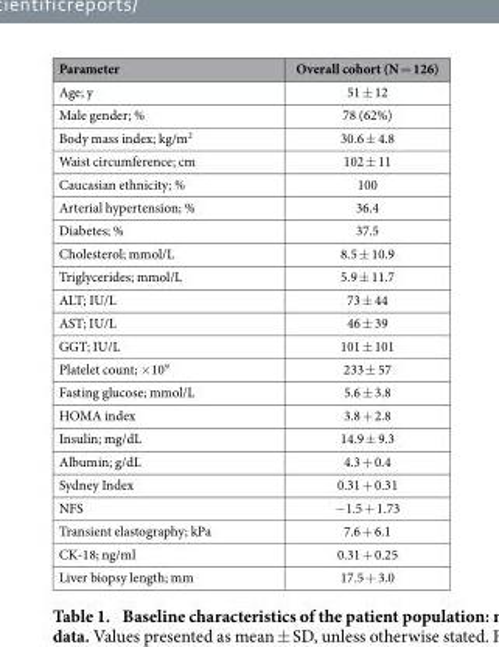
<table><thead><tr><td>Parameter</td><td>Overall cohort (N = 126)</td></tr></thead><tbody><tr><td>Age; y</td><td>51 ± 12</td></tr><tr><td>Male gender; %</td><td>78 (62%)</td></tr><tr><td>Body mass index; kg/m<sup>2</sup></td><td>30.6 ± 4.8</td></tr><tr><td>Waist circumference; cm</td><td>102 ± 11</td></tr><tr><td>Caucasian ethnicity; %</td><td>100</td></tr><tr><td>Arterial hypertension; %</td><td>36.4</td></tr><tr><td>Diabetes; %</td><td>37.5</td></tr><tr><td>Cholesterol; mmol/L</td><td>8.5 ± 10.9</td></tr><tr><td>Triglycerides; mmol/L</td><td>5.9 ± 11.7</td></tr><tr><td>ALT; IU/L</td><td>73 ± 44</td></tr><tr><td>AST; IU/L</td><td>46 ± 39</td></tr><tr><td>GGT; IU/L</td><td>101 ± 101</td></tr><tr><td>Platelet count; × 10<sup>9</sup></td><td>233 ± 57</td></tr><tr><td>Fasting glucose; mmol/L</td><td>5.6 ± 3.8</td></tr><tr><td>HOMA index</td><td>3.8 + 2.8</td></tr><tr><td>Insulin; mg/dL</td><td>14.9 ± 9.3</td></tr><tr><td>Albumin; g/dL</td><td>4.3 + 0.4</td></tr><tr><td>Sydney Index</td><td>0.31 + 0.31</td></tr><tr><td>NFS</td><td>− 1.5 + 1.73</td></tr><tr><td>Transient elastography; kPa</td><td>7.6 + 6.1</td></tr><tr><td>CK-18; ng/ml</td><td>0.31 + 0.25</td></tr><tr><td>Liver biopsy length; mm</td><td>17.5 + 3.0</td></tr></tbody></table>